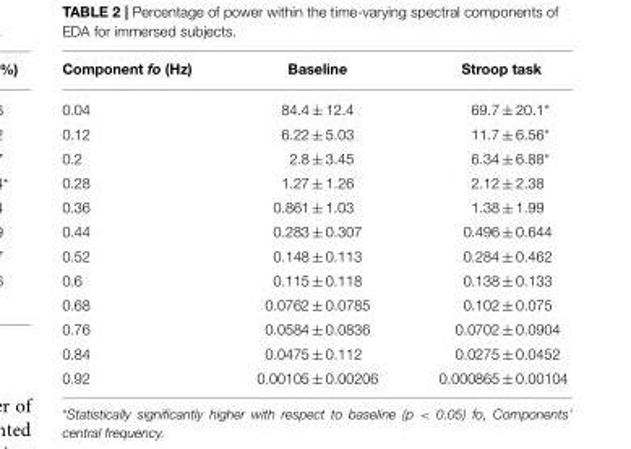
<table><thead><tr><td>Component fo (Hz)</td><td>Baseline</td><td>Stroop task</td></tr></thead><tbody><tr><td>0.04</td><td>84.4 ± 12.4</td><td>69.7 ± 20.1*</td></tr><tr><td>0.12</td><td>6.22 ± 5.03</td><td>11.7 ± 6.56*</td></tr><tr><td>0.2</td><td>2.8 ± 3.45</td><td>6.34 ± 6.88*</td></tr><tr><td>0.28</td><td>1.27 ± 1.26</td><td>2.12 ± 2.38</td></tr><tr><td>0.36</td><td>0.861 ± 1.03</td><td>1.38 ± 1.99</td></tr><tr><td>0.44</td><td>0.283 ± 0.307</td><td>0.496 ± 0.644</td></tr><tr><td>0.52</td><td>0.148 ± 0.113</td><td>0.284 ± 0.462</td></tr><tr><td>0.6</td><td>0.115 ± 0.118</td><td>0.138 ± 0.133</td></tr><tr><td>0.68</td><td>0.0762 ± 0.0785</td><td>0.102 ± 0.075</td></tr><tr><td>0.76</td><td>0.0584 ± 0.0836</td><td>0.0702 ± 0.0904</td></tr><tr><td>0.84</td><td>0.0475 ± 0.112</td><td>0.0275 ± 0.0452</td></tr><tr><td>0.92</td><td>0.00105 ± 0.00206</td><td>0.000865 ± 0.00104</td></tr></tbody></table>